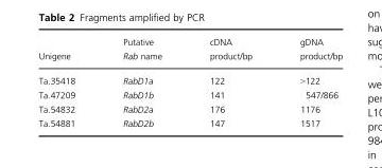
<table><thead><tr><td>Unigene</td><td>Putative Rab name</td><td>cDNA product/bp</td><td>gDNA product/bp</td></tr></thead><tbody><tr><td>Ta.35418</td><td>RabD1a</td><td>122</td><td>&gt;122</td></tr><tr><td>Ta.47209</td><td>RabD1b</td><td>141</td><td>547/866</td></tr><tr><td>Ta.54832</td><td>RabD2a</td><td>176</td><td>1176</td></tr><tr><td>Ta.54881</td><td>RabD2b</td><td>147</td><td>1517</td></tr></tbody></table>